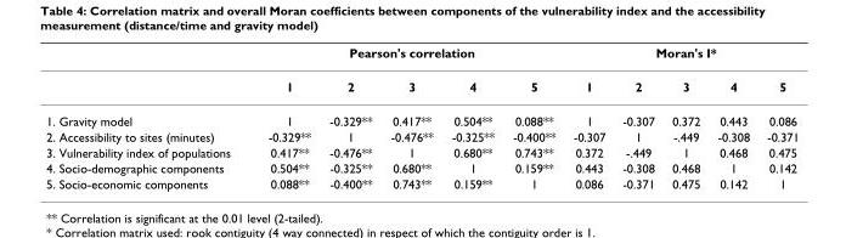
<table><thead><tr><td rowspan="2"></td><td colspan="5">Pearson&#x27;s correlation</td><td colspan="5">Moran&#x27;s I*</td></tr><tr><td>1</td><td>2</td><td>3</td><td>4</td><td>5</td><td>1</td><td>2</td><td>3</td><td>4</td><td>5</td></tr></thead><tbody><tr><td>1. Gravity model</td><td>1</td><td>-0.329**</td><td>0.417**</td><td>0.504**</td><td>0.088**</td><td>1</td><td>-0.307</td><td>0.372</td><td>0.443</td><td>0.086</td></tr><tr><td>2. Accessibility to sites (minutes)</td><td>-0.329**</td><td>1</td><td>-0.476**</td><td>-0.325**</td><td>-0.400**</td><td>-0.307</td><td>1</td><td>-.449</td><td>-0.308</td><td>-0.371</td></tr><tr><td>3. Vulnerability index of populations</td><td>0.417**</td><td>-0.476**</td><td>1</td><td>0.680**</td><td>0.743**</td><td>0.372</td><td>-.449</td><td>1</td><td>0.468</td><td>0.475</td></tr><tr><td>4. Socio-demographic components</td><td>0.504**</td><td>-0.325**</td><td>0.680**</td><td>1</td><td>0.159**</td><td>0.443</td><td>-0.308</td><td>0.468</td><td>1</td><td>0.142</td></tr><tr><td>5. Socio-economic components</td><td>0.088**</td><td>-0.400**</td><td>0.743**</td><td>0.159**</td><td>1</td><td>0.086</td><td>-0.371</td><td>0.475</td><td>0.142</td><td>1</td></tr></tbody></table>